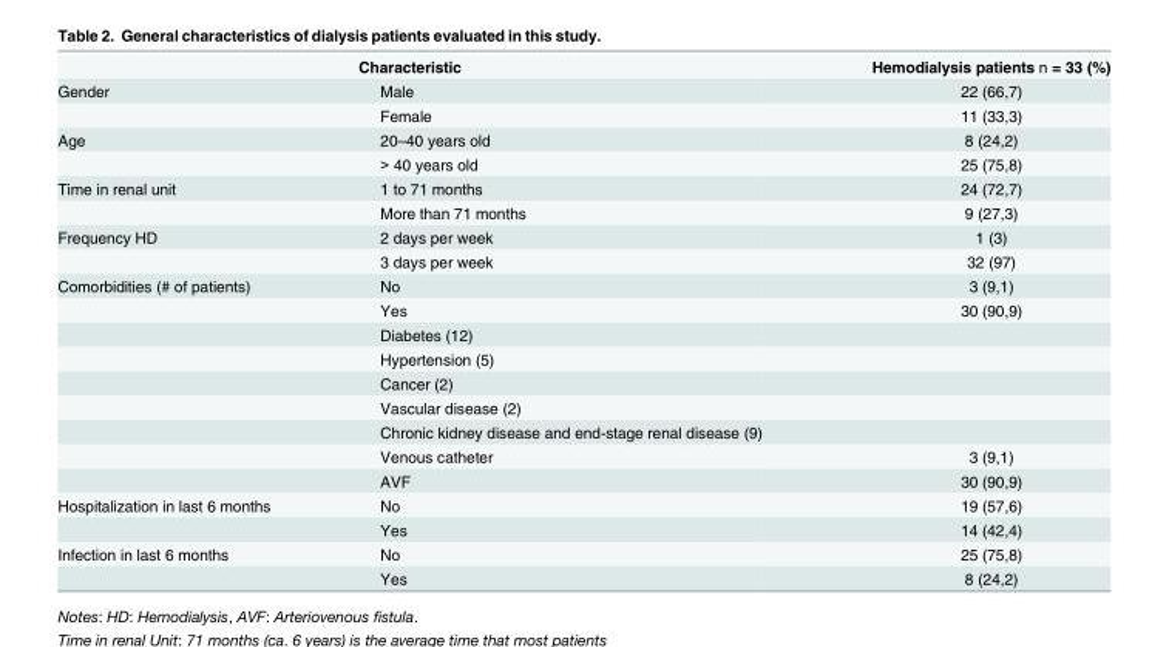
<table><tbody><tr><td colspan="2">Characteristic</td><td>Hemodialysis patients n = 33 (%)</td></tr><tr><td rowspan="2">Gender</td><td>Male</td><td>22 (66,7)</td></tr><tr><td>Female</td><td>11 (33,3)</td></tr><tr><td rowspan="2">Age</td><td>20–40 years old</td><td>8 (24,2)</td></tr><tr><td>&gt; 40 years old</td><td>25 (75,8)</td></tr><tr><td rowspan="2">Time in renal unit</td><td>1 to 71 months</td><td>24 (72,7)</td></tr><tr><td>More than 71 months</td><td>9 (27,3)</td></tr><tr><td rowspan="2">Frequency HD</td><td>2 days per week</td><td>1 (3)</td></tr><tr><td>3 days per week</td><td>32 (97)</td></tr><tr><td rowspan="9">Comorbidities (# of patients)</td><td>No</td><td>3 (9,1)</td></tr><tr><td>Yes</td><td>30 (90,9)</td></tr><tr><td>Diabetes (12)</td><td></td></tr><tr><td>Hypertension (5)</td><td></td></tr><tr><td>Cancer (2)</td><td></td></tr><tr><td>Vascular disease (2)</td><td></td></tr><tr><td>Chronic kidney disease and end-stage renal disease (9)</td><td></td></tr><tr><td>Venous catheter</td><td>3 (9,1)</td></tr><tr><td>AVF</td><td>30 (90,9)</td></tr><tr><td rowspan="2">Hospitalization in last 6 months</td><td>No</td><td>19 (57,6)</td></tr><tr><td>Yes</td><td>14 (42,4)</td></tr><tr><td rowspan="2">Infection in last 6 months</td><td>No</td><td>25 (75,8)</td></tr><tr><td>Yes</td><td>8 (24,2)</td></tr></tbody></table>